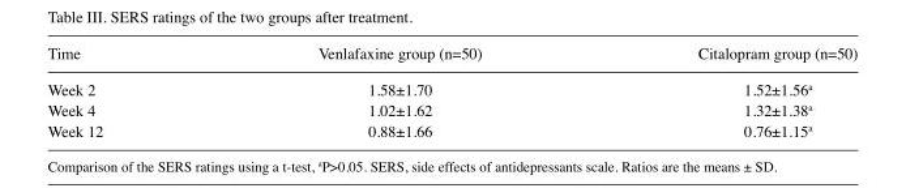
<table><thead><tr><td>Time</td><td>Venlafaxine group (n=50)</td><td>Citalopram group (n=50)</td></tr></thead><tbody><tr><td>Week 2</td><td>1.58±1.70</td><td>1.52±1.56<sup>a</sup></td></tr><tr><td>Week 4</td><td>1.02±1.62</td><td>1.32±1.38<sup>a</sup></td></tr><tr><td>Week 12</td><td>0.88±1.66</td><td>0.76±1.15<sup>a</sup></td></tr></tbody></table>